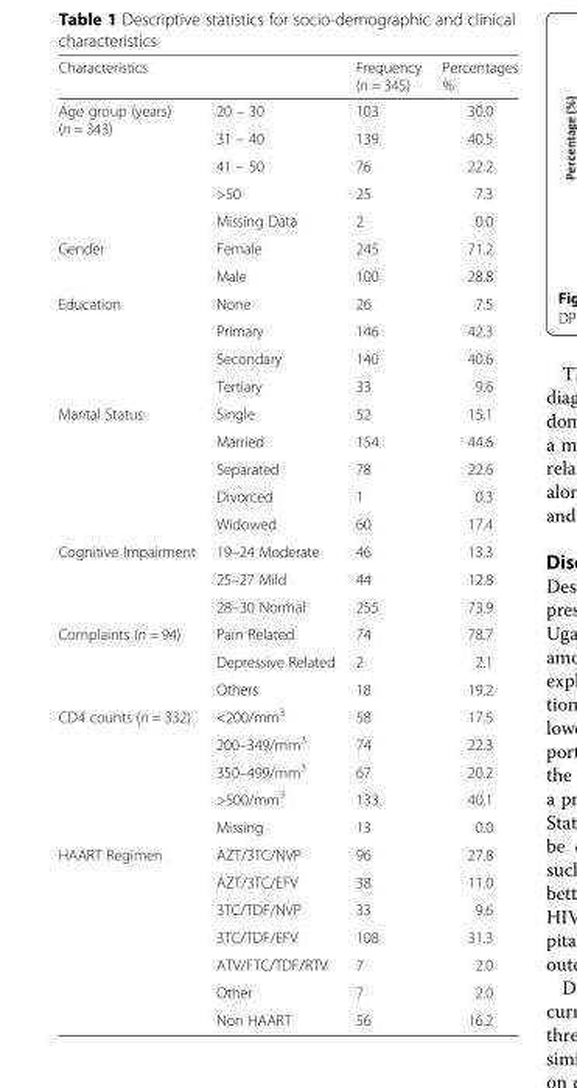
<table><thead><tr><td>Characteristics</td><td></td><td>Frequency (n = 345)</td><td>Percentages %</td></tr></thead><tbody><tr><td rowspan="5">Age group (years) (n = 343)</td><td>20 – 30</td><td>103</td><td>30.0</td></tr><tr><td>31 – 40</td><td>139</td><td>40.5</td></tr><tr><td>41 – 50</td><td>76</td><td>22.2</td></tr><tr><td>&gt;50</td><td>25</td><td>7.3</td></tr><tr><td>Missing Data</td><td>2</td><td>0.0</td></tr><tr><td rowspan="2">Gender</td><td>Female</td><td>245</td><td>71.2</td></tr><tr><td>Male</td><td>100</td><td>28.8</td></tr><tr><td rowspan="4">Education</td><td>None</td><td>26</td><td>7.5</td></tr><tr><td>Primary</td><td>146</td><td>42.3</td></tr><tr><td>Secondary</td><td>140</td><td>40.6</td></tr><tr><td>Tertiary</td><td>33</td><td>9.6</td></tr><tr><td rowspan="5">Marital Status</td><td>Single</td><td>52</td><td>15.1</td></tr><tr><td>Married</td><td>154</td><td>44.6</td></tr><tr><td>Separated</td><td>78</td><td>22.6</td></tr><tr><td>Divorced</td><td>1</td><td>0.3</td></tr><tr><td>Widowed</td><td>60</td><td>17.4</td></tr><tr><td rowspan="3">Cognitive Impairment</td><td>19–24 Moderate</td><td>46</td><td>13.3</td></tr><tr><td>25–27 Mild</td><td>44</td><td>12.8</td></tr><tr><td>28–30 Normal</td><td>255</td><td>73.9</td></tr><tr><td rowspan="3">Complaints (n = 94)</td><td>Pain Related</td><td>74</td><td>78.7</td></tr><tr><td>Depressive Related</td><td>2</td><td>2.1</td></tr><tr><td>Others</td><td>18</td><td>19.2</td></tr><tr><td rowspan="5">CD4 counts (n = 332)</td><td>&lt;200/mm<sup>3</sup></td><td>58</td><td>17.5</td></tr><tr><td>200–349/mm<sup>3</sup></td><td>74</td><td>22.3</td></tr><tr><td>350–499/mm<sup>3</sup></td><td>67</td><td>20.2</td></tr><tr><td>&gt;500/mm<sup>3</sup></td><td>133</td><td>40.1</td></tr><tr><td>Missing</td><td>13</td><td>0.0</td></tr><tr><td rowspan="7">HAART Regimen</td><td>AZT/3TC/NVP</td><td>96</td><td>27.8</td></tr><tr><td>AZT/3TC/EFV</td><td>38</td><td>11.0</td></tr><tr><td>3TC/TDF/NVP</td><td>33</td><td>9.6</td></tr><tr><td>3TC/TDF/EFV</td><td>108</td><td>31.3</td></tr><tr><td>ATV/FTC/TDF/RTV</td><td>7</td><td>2.0</td></tr><tr><td>Other</td><td>7</td><td>2.0</td></tr><tr><td>Non HAART</td><td>56</td><td>16.2</td></tr></tbody></table>